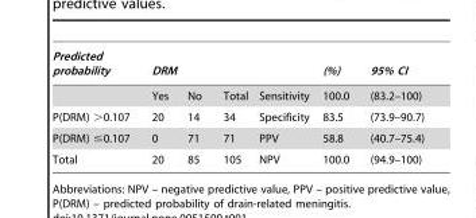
<table><thead><tr><td rowspan="2">Predicted probability</td><td colspan="3">DRM</td><td rowspan="2">Sensitivity</td><td rowspan="2">(%) 100.0</td><td rowspan="2">95% CI (83.2–100)</td></tr><tr><td>Yes</td><td>No</td><td>Total</td></tr></thead><tbody><tr><td>P(DRM) &gt;0.107</td><td>20</td><td>14</td><td>34</td><td>Specificity</td><td>83.5</td><td>(73.9–90.7)</td></tr><tr><td>P(DRM) ≤0.107</td><td>0</td><td>71</td><td>71</td><td>PPV</td><td>58.8</td><td>(40.7–75.4)</td></tr><tr><td>Total</td><td>20</td><td>85</td><td>105</td><td>NPV</td><td>100.0</td><td>(94.9–100)</td></tr></tbody></table>